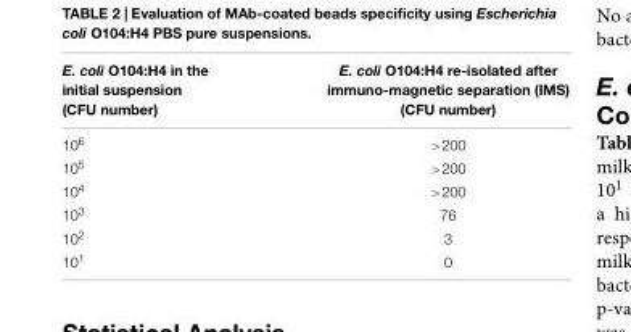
<table><thead><tr><td>E. coli O104:H4 in the initial suspension (CFU number)</td><td>E. coli O104:H4 re-isolated after immuno-magnetic separation (IMS) (CFU number)</td></tr></thead><tbody><tr><td>10<sup>6</sup></td><td>&gt;200</td></tr><tr><td>10<sup>5</sup></td><td>&gt;200</td></tr><tr><td>10<sup>4</sup></td><td>&gt;200</td></tr><tr><td>10<sup>3</sup></td><td>76</td></tr><tr><td>10<sup>2</sup></td><td>3</td></tr><tr><td>10<sup>1</sup></td><td>0</td></tr></tbody></table>